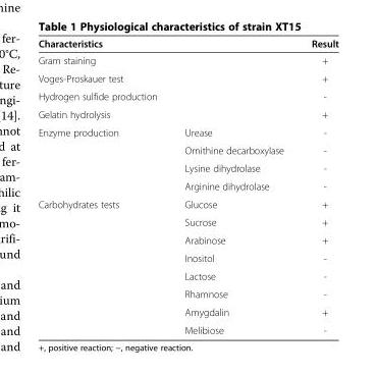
<table><thead><tr><td>Characteristics</td><td></td><td>Result</td></tr></thead><tbody><tr><td>Gram staining</td><td></td><td>+</td></tr><tr><td>Voges-Proskauer test</td><td></td><td>+</td></tr><tr><td>Hydrogen sulfide production</td><td></td><td>-</td></tr><tr><td>Gelatin hydrolysis</td><td></td><td>+</td></tr><tr><td rowspan="4">Enzyme production</td><td>Urease</td><td>-</td></tr><tr><td>Ornithine decarboxylase</td><td>-</td></tr><tr><td>Lysine dihydrolase</td><td>-</td></tr><tr><td>Arginine dihydrolase</td><td>-</td></tr><tr><td rowspan="8">Carbohydrates tests</td><td>Glucose</td><td>+</td></tr><tr><td>Sucrose</td><td>+</td></tr><tr><td>Arabinose</td><td>+</td></tr><tr><td>Inositol</td><td>-</td></tr><tr><td>Lactose</td><td>-</td></tr><tr><td>Rhamnose</td><td>-</td></tr><tr><td>Amygdalin</td><td>+</td></tr><tr><td>Melibiose</td><td>-</td></tr></tbody></table>